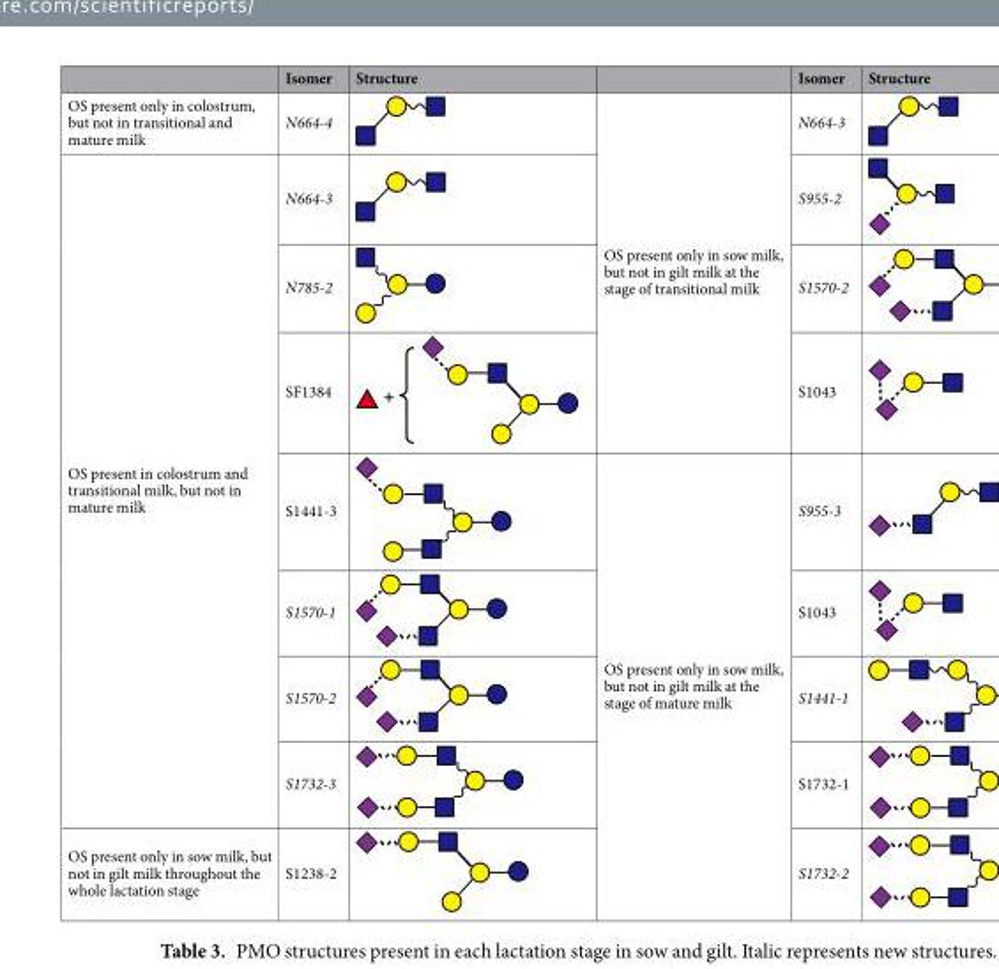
<table><thead><tr><td></td><td>Isomer</td><td>Structure</td><td></td><td>Isomer</td><td>Structure</td></tr></thead><tbody><tr><td>OS present only in colostrum, but not in transitional and mature milk</td><td>N664-4</td><td></td><td rowspan="4">OS present only in sow milk, but not in gilt milk at the stage of transitional milk</td><td>N664-3</td><td></td></tr><tr><td rowspan="7">OS present in colostrum and transitional milk, but not in mature milk</td><td>N664-3</td><td></td><td>S955-2</td><td></td></tr><tr><td>N785-2</td><td></td><td>S1570-2</td><td></td></tr><tr><td>SF1384</td><td></td><td>S1043</td><td></td></tr><tr><td>S1441-3</td><td></td><td rowspan="5">OS present only in sow milk, but not in gilt milk at the stage of mature milk</td><td>S955-3</td><td></td></tr><tr><td>S1570-1</td><td></td><td>S1043</td><td></td></tr><tr><td>S1570-2</td><td></td><td>S1441-1</td><td></td></tr><tr><td>S1732-3</td><td></td><td>S1732-1</td><td></td></tr><tr><td>OS present only in sow milk, but not in gilt milk throughout the whole lactation stage</td><td>S1238-2</td><td></td><td>S1732-2</td><td></td></tr></tbody></table>